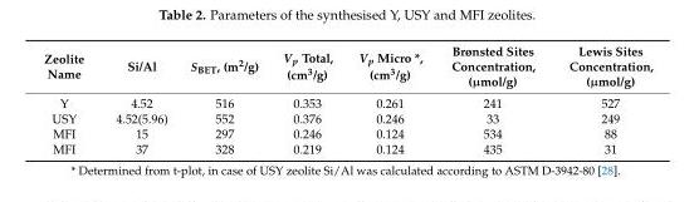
<table><thead><tr><td>Zeolite Name</td><td>Si/Al</td><td>S<sub>BET</sub>, (m<sup>2</sup>/g)</td><td>V<sub>p</sub> Total, (cm<sup>3</sup>/g)</td><td>V<sub>p</sub> Micro *, (cm<sup>3</sup>/g)</td><td>Brønsted Sites Concentration, (µmol/g)</td><td>Lewis Sites Concentration, (µmol/g)</td></tr></thead><tbody><tr><td>Y</td><td>4.52</td><td>516</td><td>0.353</td><td>0.261</td><td>241</td><td>527</td></tr><tr><td>USY</td><td>4.52(5.96)</td><td>552</td><td>0.376</td><td>0.246</td><td>33</td><td>249</td></tr><tr><td>MFI</td><td>15</td><td>297</td><td>0.246</td><td>0.124</td><td>534</td><td>88</td></tr><tr><td>MFI</td><td>37</td><td>328</td><td>0.219</td><td>0.124</td><td>435</td><td>31</td></tr></tbody></table>